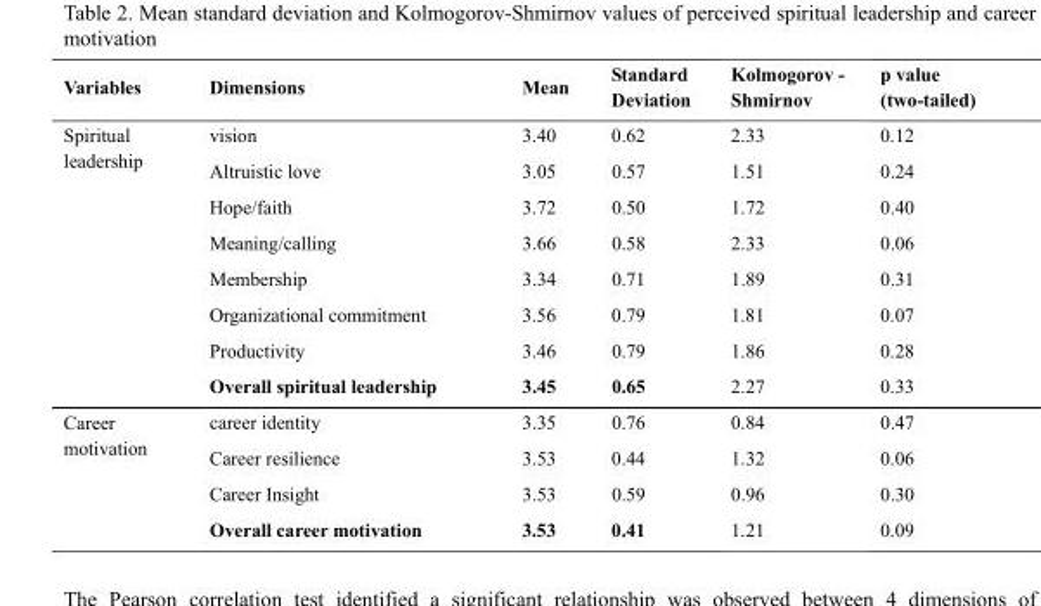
<table><thead><tr><td>Variables</td><td>Dimensions</td><td>Mean</td><td>Standard Deviation</td><td>Kolmogorov - Shmirnov</td><td>p value (two-tailed)</td></tr></thead><tbody><tr><td rowspan="8">Spiritual leadership</td><td>vision</td><td>3.40</td><td>0.62</td><td>2.33</td><td>0.12</td></tr><tr><td>Altruistic love</td><td>3.05</td><td>0.57</td><td>1.51</td><td>0.24</td></tr><tr><td>Hope/faith</td><td>3.72</td><td>0.50</td><td>1.72</td><td>0.40</td></tr><tr><td>Meaning/calling</td><td>3.66</td><td>0.58</td><td>2.33</td><td>0.06</td></tr><tr><td>Membership</td><td>3.34</td><td>0.71</td><td>1.89</td><td>0.31</td></tr><tr><td>Organizational commitment</td><td>3.56</td><td>0.79</td><td>1.81</td><td>0.07</td></tr><tr><td>Productivity</td><td>3.46</td><td>0.79</td><td>1.86</td><td>0.28</td></tr><tr><td>Overall spiritual leadership</td><td>3.45</td><td>0.65</td><td>2.27</td><td>0.33</td></tr><tr><td rowspan="4">Career motivation</td><td>career identity</td><td>3.35</td><td>0.76</td><td>0.84</td><td>0.47</td></tr><tr><td>Career resilience</td><td>3.53</td><td>0.44</td><td>1.32</td><td>0.06</td></tr><tr><td>Career Insight</td><td>3.53</td><td>0.59</td><td>0.96</td><td>0.30</td></tr><tr><td>Overall career motivation</td><td>3.53</td><td>0.41</td><td>1.21</td><td>0.09</td></tr></tbody></table>